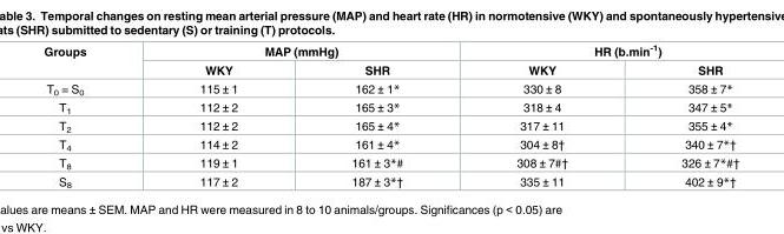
<table><thead><tr><td rowspan="2">Groups</td><td colspan="2">MAP (mmHg)</td><td colspan="2">HR (b.min<sup>-1</sup>)</td></tr><tr><td>WKY</td><td>SHR</td><td>WKY</td><td>SHR</td></tr></thead><tbody><tr><td>T<sub>0</sub> = S<sub>0</sub></td><td>115 ± 1</td><td>162 ± 1*</td><td>330 ± 8</td><td>358 ± 7*</td></tr><tr><td>T<sub>1</sub></td><td>112 ± 2</td><td>165 ± 3*</td><td>318 ± 4</td><td>347 ± 5*</td></tr><tr><td>T<sub>2</sub></td><td>112 ± 2</td><td>165 ± 4*</td><td>317 ± 11</td><td>355 ± 4*</td></tr><tr><td>T<sub>4</sub></td><td>114 ± 2</td><td>161 ± 4*</td><td>304 ± 8†</td><td>340 ± 7*†</td></tr><tr><td>T<sub>8</sub></td><td>119 ± 1</td><td>161 ± 3*#</td><td>308 ± 7#†</td><td>326 ± 7*#†</td></tr><tr><td>S<sub>8</sub></td><td>117 ± 2</td><td>187 ± 3*†</td><td>335 ± 11</td><td>402 ± 9*†</td></tr></tbody></table>